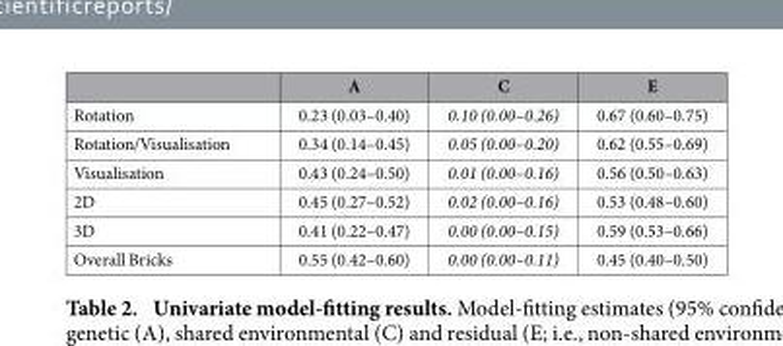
<table><thead><tr><td></td><td>A</td><td>C</td><td>E</td></tr></thead><tbody><tr><td>Rotation</td><td>0.23 (0.03–0.40)</td><td>0.10 (0.00–0.26)</td><td>0.67 (0.60–0.75)</td></tr><tr><td>Rotation/Visualisation</td><td>0.34 (0.14–0.45)</td><td>0.05 (0.00–0.20)</td><td>0.62 (0.55–0.69)</td></tr><tr><td>Visualisation</td><td>0.43 (0.24–0.50)</td><td>0.01 (0.00–0.16)</td><td>0.56 (0.50–0.63)</td></tr><tr><td>2D</td><td>0.45 (0.27–0.52)</td><td>0.02 (0.00–0.16)</td><td>0.53 (0.48–0.60)</td></tr><tr><td>3D</td><td>0.41 (0.22–0.47)</td><td>0.00 (0.00–0.15)</td><td>0.59 (0.53–0.66)</td></tr><tr><td>Overall Bricks</td><td>0.55 (0.42–0.60)</td><td>0.00 (0.00–0.11)</td><td>0.45 (0.40–0.50)</td></tr></tbody></table>